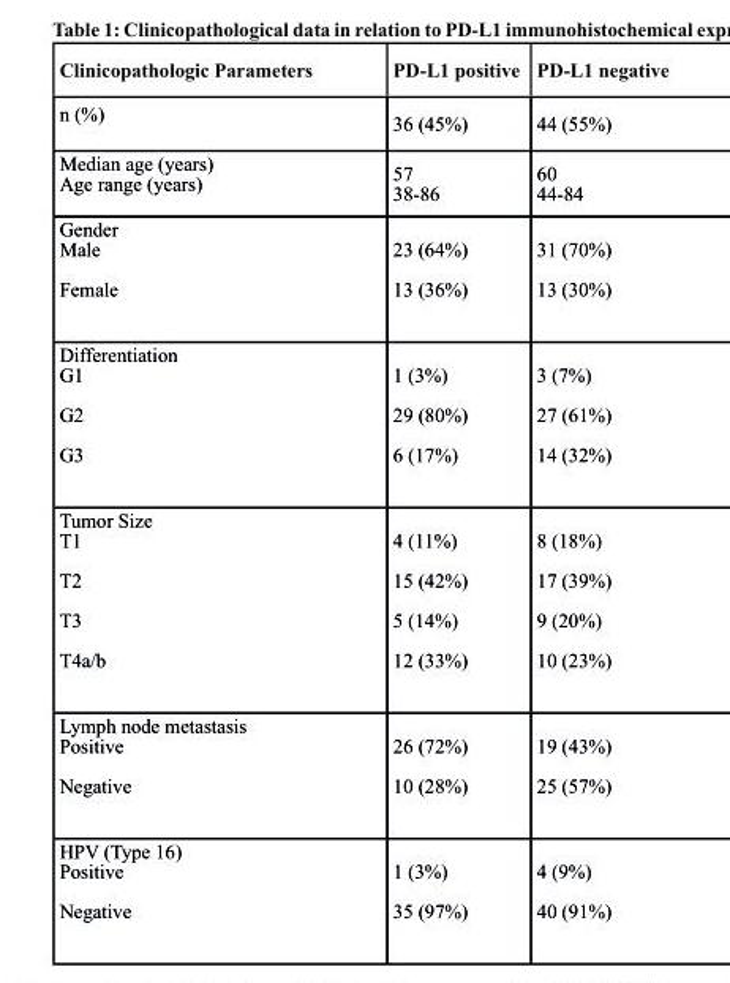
<table><thead><tr><td>clinicopathologic Parameters</td><td>Pd-l1 positive</td><td>Pd-l1 negative</td></tr></thead><tbody><tr><td>n (%)</td><td>36 (45%)</td><td>44 (55%)</td></tr><tr><td>Median age (years) Age range (years)</td><td>57 38-86</td><td>60 44-84</td></tr><tr><td>Gender Male Female</td><td>23 (64%) 13 (36%)</td><td>31 (70%) 13 (30%)</td></tr><tr><td>Differentiation G1 G2 G3</td><td>1 (3%) 29 (80%) 6 (17%)</td><td>3 (7%) 27 (61%) 14 (32%)</td></tr><tr><td>Tumor Size T1 T2 T3 T4a/b</td><td>4 (11%) 15 (42%) 5 (14%) 12 (33%)</td><td>8 (18%) 17 (39%) 9 (20%) 10 (23%)</td></tr><tr><td>Lymph node metastasis Positive Negative</td><td>26 (72%) 10 (28%)</td><td>19 (43%) 25 (57%)</td></tr><tr><td>HPV (Type 16) Positive Negative</td><td>1 (3%) 35 (97%)</td><td>4 (9%) 40 (91%)</td></tr></tbody></table>